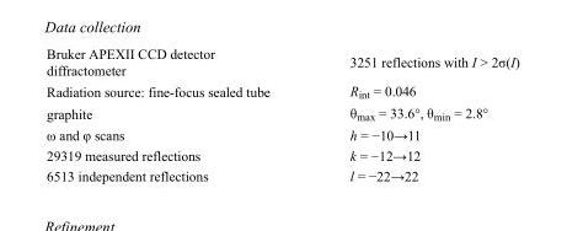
<table><tbody><tr><td>Bruker APEXII CCD detector diffractometer</td><td>3251 reflections with I &gt; 2σ(I)</td></tr><tr><td>Radiation source: fine-focus sealed tube</td><td>R<sub>int</sub> = 0.046</td></tr><tr><td>graphite</td><td>θ<sub>max</sub> = 33.6°, θ<sub>min</sub> = 2.8°</td></tr><tr><td>ω and φ scans</td><td>h = −10→11</td></tr><tr><td>29319 measured reflections</td><td>k = −12→12</td></tr><tr><td>6513 independent reflections</td><td>l = −22→22</td></tr></tbody></table>